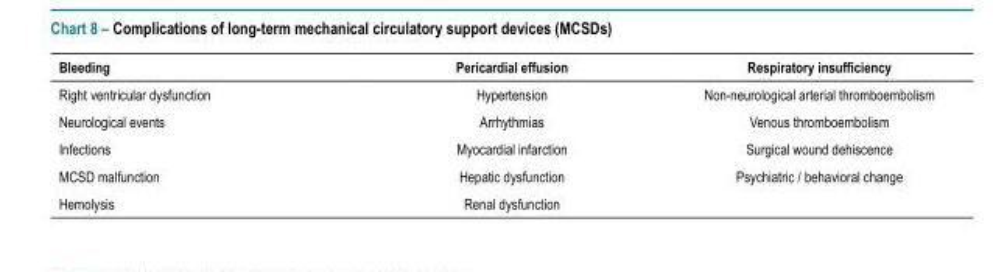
<table><thead><tr><td>Bleeding</td><td>Pericardial effusion</td><td>Respiratory insufficiency</td></tr></thead><tbody><tr><td>Right ventricular dysfunction</td><td>Hypertension</td><td>Non‑neurological arterial thromboembolism</td></tr><tr><td>Neurological events</td><td>Arrhythmias</td><td>Venous thromboembolism</td></tr><tr><td>Infections</td><td>Myocardial infarction</td><td>Surgical wound dehiscence</td></tr><tr><td>MCSD malfunction</td><td>Hepatic dysfunction</td><td>Psychiatric / behavioral change</td></tr><tr><td>Hemolysis</td><td>Renal dysfunction</td><td></td></tr></tbody></table>